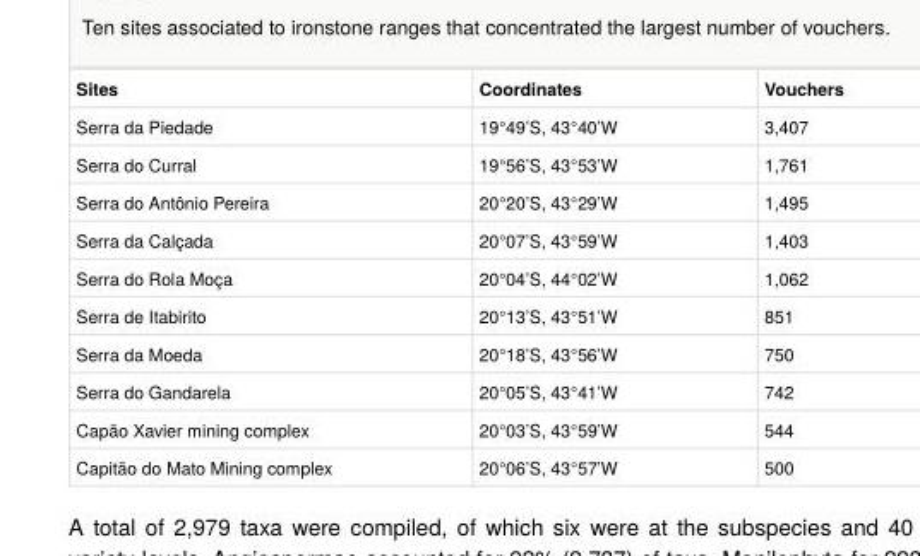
<table><tbody><tr><td>Sites</td><td>Coordinates</td><td>Vouchers</td></tr><tr><td>Serra da Piedade</td><td>19°49’S, 43°40’W</td><td>3,407</td></tr><tr><td>Serra do Curral</td><td>19°56’S, 43°53’W</td><td>1,761</td></tr><tr><td>Serra do Antônio Pereira</td><td>20°20’S, 43°29’W</td><td>1,495</td></tr><tr><td>Serra da Calçada</td><td>20°07’S, 43°59’W</td><td>1,403</td></tr><tr><td>Serra do Rola Moça</td><td>20°04’S, 44°02’W</td><td>1,062</td></tr><tr><td>Serra de Itabirito</td><td>20°13’S, 43°51’W</td><td>851</td></tr><tr><td>Serra da Moeda</td><td>20°18’S, 43°56’W</td><td>750</td></tr><tr><td>Serra do Gandarela</td><td>20°05’S, 43°41’W</td><td>742</td></tr><tr><td>Capão Xavier mining complex</td><td>20°03’S, 43°59’W</td><td>544</td></tr><tr><td>Capitão do Mato Mining complex</td><td>20°06’S, 43°57’W</td><td>500</td></tr></tbody></table>